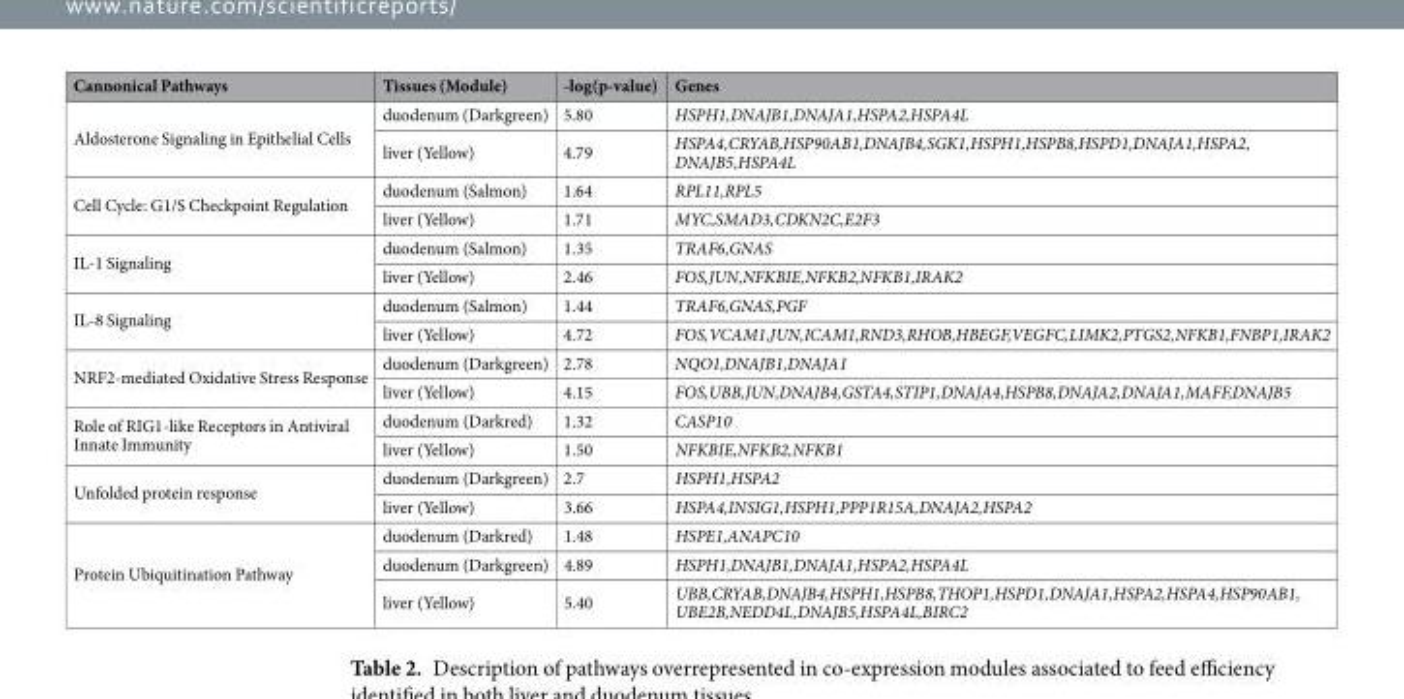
<table><thead><tr><td>Cannonical Pathways</td><td>Tissues (Module)</td><td>-log(p-value)</td><td>Genes</td></tr></thead><tbody><tr><td rowspan="2">Aldosterone Signaling in Epithelial Cells</td><td>duodenum (Darkgreen)</td><td>5.80</td><td>HSPH1,DNAJB1,DNAJA1,HSPA2,HSPA4L</td></tr><tr><td>liver (Yellow)</td><td>4.79</td><td>HSPA4,CRYAB,HSP90AB1,DNAJB4,SGK1,HSPH1,HSPB8,HSPD1,DNAJA1,HSPA2, DNAJB5,HSPA4L</td></tr><tr><td rowspan="2">Cell Cycle: G1/S Checkpoint Regulation</td><td>duodenum (Salmon)</td><td>1.64</td><td>RPL11,RPL5</td></tr><tr><td>liver (Yellow)</td><td>1.71</td><td>MYC,SMAD3,CDKN2C,E2F3</td></tr><tr><td rowspan="2">IL-1 Signaling</td><td>duodenum (Salmon)</td><td>1.35</td><td>TRAF6,GNAS</td></tr><tr><td>liver (Yellow)</td><td>2.46</td><td>FOS,JUN,NFKBIE,NFKB2,NFKB1,IRAK2</td></tr><tr><td rowspan="2">IL-8 Signaling</td><td>duodenum (Salmon)</td><td>1.44</td><td>TRAF6,GNAS,PGF</td></tr><tr><td>liver (Yellow)</td><td>4.72</td><td>FOS,VCAM1,JUN,ICAM1,RND3,RHOB,HBEGF,VEGFC,LIMK2,PTGS2,NFKB1,FNBP1,IRAK2</td></tr><tr><td rowspan="2">NRF2-mediated Oxidative Stress Response</td><td>duodenum (Darkgreen)</td><td>2.78</td><td>NQO1,DNAJB1,DNAJA1</td></tr><tr><td>liver (Yellow)</td><td>4.15</td><td>FOS,UBB,JUN,DNAJB4,GSTA4,STIP1,DNAJA4,HSPB8,DNAJA2,DNAJA1,MAFF,DNAJB5</td></tr><tr><td rowspan="2">Role of RIG1-like Receptors in Antiviral Innate Immunity</td><td>duodenum (Darkred)</td><td>1.32</td><td>CASP10</td></tr><tr><td>liver (Yellow)</td><td>1.50</td><td>NFKBIE,NFKB2,NFKB1</td></tr><tr><td rowspan="2">Unfolded protein response</td><td>duodenum (Darkgreen)</td><td>2.7</td><td>HSPH1,HSPA2</td></tr><tr><td>liver (Yellow)</td><td>3.66</td><td>HSPA4,INSIG1,HSPH1,PPP1R15A,DNAJA2,HSPA2</td></tr><tr><td rowspan="3">Protein Ubiquitination Pathway</td><td>duodenum (Darkred)</td><td>1.48</td><td>HSPE1,ANAPC10</td></tr><tr><td>duodenum (Darkgreen)</td><td>4.89</td><td>HSPH1,DNAJB1,DNAJA1,HSPA2,HSPA4L</td></tr><tr><td>liver (Yellow)</td><td>5.40</td><td>UBB,CRYAB,DNAJB4,HSPH1,HSPB8,THOP1,HSPD1,DNAJA1,HSPA2,HSPA4,HSP90AB1, UBE2B,NEDD4L,DNAJB5,HSPA4L,BIRC2</td></tr></tbody></table>